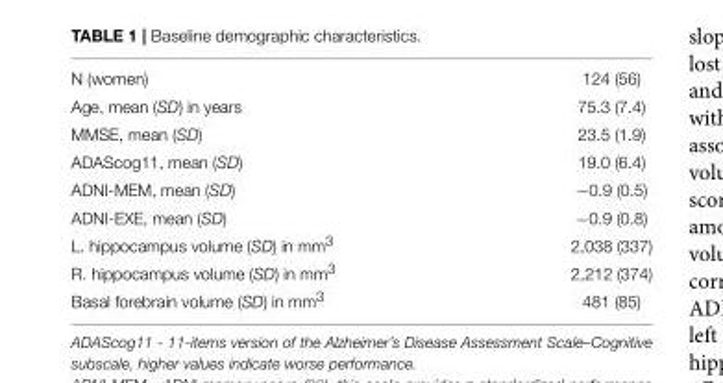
<table><tbody><tr><td>N (women)</td><td>124 (56)</td></tr><tr><td>Age, mean (SD) in years</td><td>75.3 (7.4)</td></tr><tr><td>MMSE, mean (SD)</td><td>23.5 (1.9)</td></tr><tr><td>ADAScog11, mean (SD)</td><td>19.0 (6.4)</td></tr><tr><td>ADNI-MEM, mean (SD)</td><td>−0.9 (0.5)</td></tr><tr><td>ADNI-EXE, mean (SD)</td><td>−0.9 (0.8)</td></tr><tr><td>L. hippocampus volume (SD) in mm<sup>3</sup></td><td>2,038 (337)</td></tr><tr><td>R. hippocampus volume (SD) in mm<sup>3</sup></td><td>2,212 (374)</td></tr><tr><td>Basal forebrain volume (SD) in mm<sup>3</sup></td><td>481 (85)</td></tr></tbody></table>